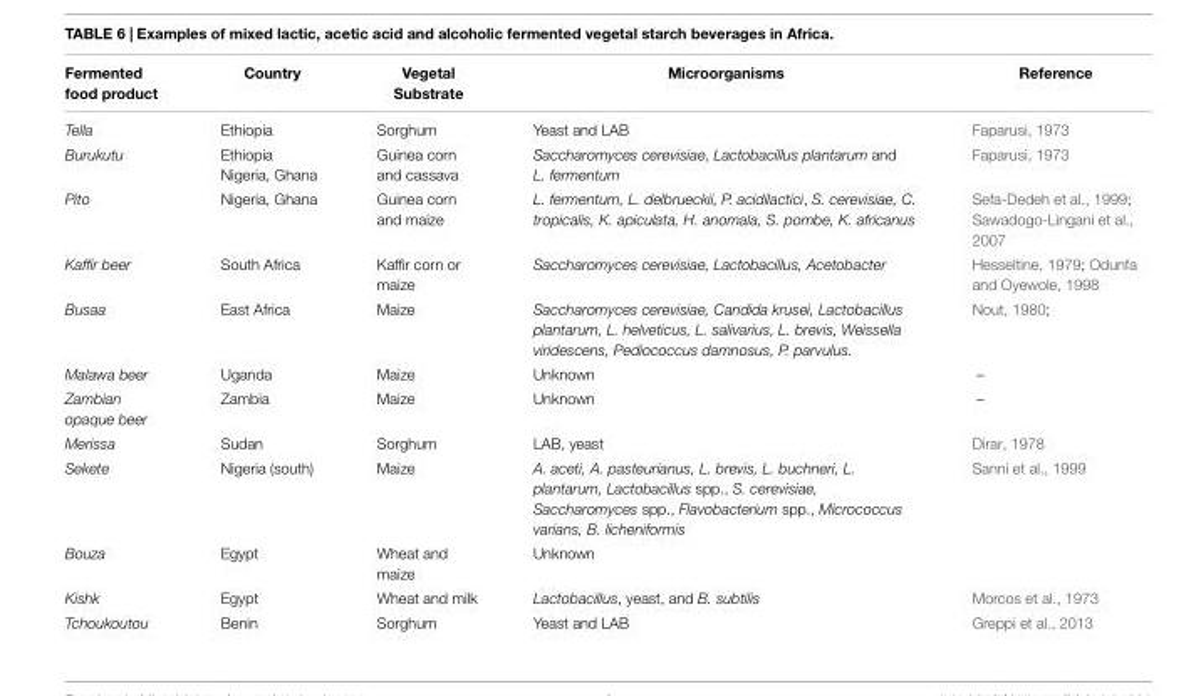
<table><thead><tr><td>Fermented food product</td><td>Country</td><td>Vegetal Substrate</td><td>Microorganisms</td><td>Reference</td></tr></thead><tbody><tr><td>Tella</td><td>Ethiopia</td><td>Sorghum</td><td>Yeast and LAB</td><td>Faparusi, 1973</td></tr><tr><td>Burukutu</td><td>Ethiopia Nigeria, Ghana</td><td>Guinea corn and cassava</td><td>Saccharomyces cerevisiae, Lactobacillus plantarum and L. fermentum</td><td>Faparusi, 1973</td></tr><tr><td>Pito</td><td>Nigeria, Ghana</td><td>Guinea corn and maize</td><td>L. fermentum, L. delbrueckii, P. acidilactici, S. cerevisiae, C. tropicalis, K. apiculata, H. anomala, S. pombe, K. africanus</td><td>Sefa-Dedeh et al., 1999; Sawadogo-Lingani et al., 2007</td></tr><tr><td>Kaffir beer</td><td>South Africa</td><td>Kaffir corn or maize</td><td>Saccharomyces cerevisiae, Lactobacillus, Acetobacter</td><td>Hesseltine, 1979; Odunfa and Oyewole, 1998</td></tr><tr><td>Busaa</td><td>East Africa</td><td>Maize</td><td>Saccharomyces cerevisiae, Candida krusei, Lactobacillus plantarum, L. helveticus, L. salivarius, L. brevis, Weissella viridescens, Pediococcus damnosus, P. parvulus.</td><td>Nout, 1980;</td></tr><tr><td>Malawa beer</td><td>Uganda</td><td>Maize</td><td>Unknown</td><td>–</td></tr><tr><td>Zambian opaque beer</td><td>Zambia</td><td>Maize</td><td>Unknown</td><td>–</td></tr><tr><td>Merissa</td><td>Sudan</td><td>Sorghum</td><td>LAB, yeast</td><td>Dirar, 1978</td></tr><tr><td>Sekete</td><td>Nigeria (south)</td><td>Maize</td><td>A. aceti, A. pasteurianus, L. brevis, L. buchneri, L. plantarum, Lactobacillus spp., S. cerevisiae, Saccharomyces spp., Flavobacterium spp., Micrococcus varians, B. licheniformis</td><td>Sanni et al., 1999</td></tr><tr><td>Bouza</td><td>Egypt</td><td>Wheat and maize</td><td>Unknown</td><td></td></tr><tr><td>Kishk</td><td>Egypt</td><td>Wheat and milk</td><td>Lactobacillus, yeast, and B. subtilis</td><td>Morcos et al., 1973</td></tr><tr><td>Tchoukoutou</td><td>Benin</td><td>Sorghum</td><td>Yeast and LAB</td><td>Greppi et al., 2013</td></tr></tbody></table>